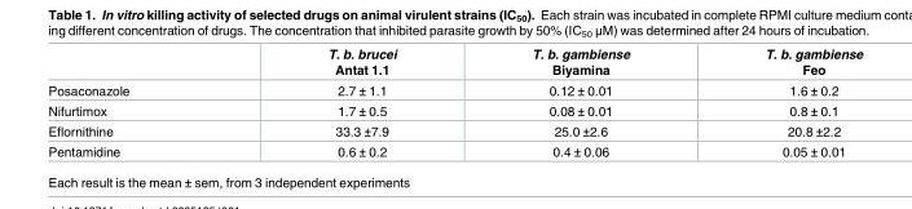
<table><thead><tr><td></td><td>T. b. brucei Antat 1.1</td><td>T. b. gambiense Biyamina</td><td>T. b. gambiense Feo</td></tr></thead><tbody><tr><td>Posaconazole</td><td>2.7 ± 1.1</td><td>0.12 ± 0.01</td><td>1.6 ± 0.2</td></tr><tr><td>Nifurtimox</td><td>1.7 ± 0.5</td><td>0.08 ± 0.01</td><td>0.8 ± 0.1</td></tr><tr><td>Eflornithine</td><td>33.3 ±7.9</td><td>25.0 ±2.6</td><td>20.8 ±2.2</td></tr><tr><td>Pentamidine</td><td>0.6 ± 0.2</td><td>0.4 ± 0.06</td><td>0.05 ± 0.01</td></tr></tbody></table>